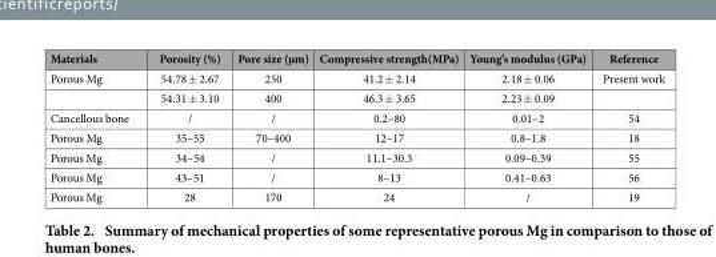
<table><thead><tr><td>Materials</td><td>Porosity (%)</td><td>Pore size (μm)</td><td>Compressive strength(MPa)</td><td>Young’s modulus (GPa)</td><td>Reference</td></tr></thead><tbody><tr><td rowspan="2">Porous Mg</td><td>54.78 ± 2.67</td><td>250</td><td>41.2 ± 2.14</td><td>2.18 ± 0.06</td><td>Present work</td></tr><tr><td>54.31 ± 3.10</td><td>400</td><td>46.3 ± 3.65</td><td>2.23 ± 0.09</td><td></td></tr><tr><td>Cancellous bone</td><td>/</td><td>/</td><td>0.2–80</td><td>0.01–2</td><td>54</td></tr><tr><td>Porous Mg</td><td>35–55</td><td>70–400</td><td>12–17</td><td>0.8–1.8</td><td>18</td></tr><tr><td>Porous Mg</td><td>34–54</td><td>/</td><td>11.1–30.3</td><td>0.09–0.39</td><td>55</td></tr><tr><td>Porous Mg</td><td>43–51</td><td>/</td><td>8–13</td><td>0.41–0.63</td><td>56</td></tr><tr><td>Porous Mg</td><td>28</td><td>170</td><td>24</td><td>/</td><td>19</td></tr></tbody></table>